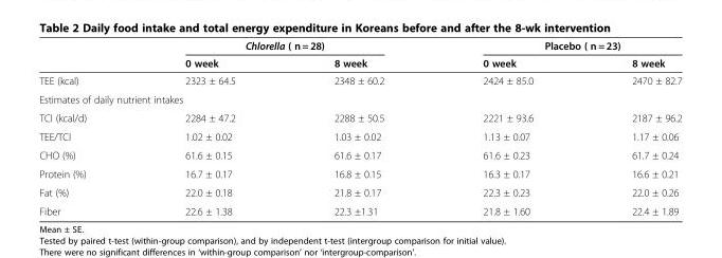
<table><thead><tr><td rowspan="2"></td><td colspan="2">Chlorella ( n = 28)</td><td colspan="2">Placebo ( n = 23)</td></tr><tr><td>0 week</td><td>8 week</td><td>0 week</td><td>8 week</td></tr></thead><tbody><tr><td>TEE (kcal)</td><td>2323 ± 64.5</td><td>2348 ± 60.2</td><td>2424 ± 85.0</td><td>2470 ± 82.7</td></tr><tr><td colspan="5">Estimates of daily nutrient intakes</td></tr><tr><td>TCI (kcal/d)</td><td>2284 ± 47.2</td><td>2288 ± 50.5</td><td>2221 ± 93.6</td><td>2187 ± 96.2</td></tr><tr><td>TEE/TCI</td><td>1.02 ± 0.02</td><td>1.03 ± 0.02</td><td>1.13 ± 0.07</td><td>1.17 ± 0.06</td></tr><tr><td>CHO (%)</td><td>61.6 ± 0.15</td><td>61.6 ± 0.17</td><td>61.6 ± 0.23</td><td>61.7 ± 0.24</td></tr><tr><td>Protein (%)</td><td>16.7 ± 0.17</td><td>16.8 ± 0.15</td><td>16.3 ± 0.17</td><td>16.6 ± 0.21</td></tr><tr><td>Fat (%)</td><td>22.0 ± 0.18</td><td>21.8 ± 0.17</td><td>22.3 ± 0.23</td><td>22.0 ± 0.26</td></tr><tr><td>Fiber</td><td>22.6 ± 1.38</td><td>22.3 ±1.31</td><td>21.8 ± 1.60</td><td>22.4 ± 1.89</td></tr></tbody></table>